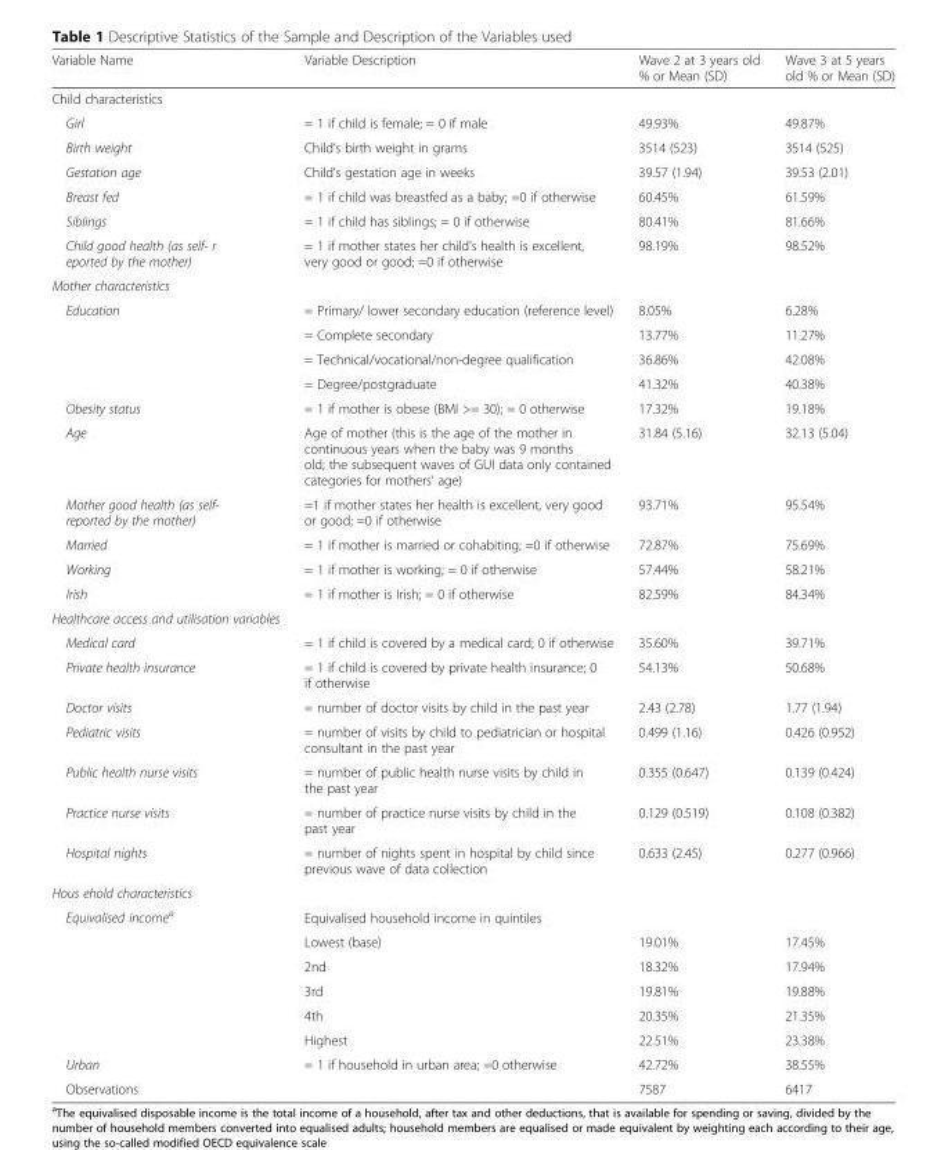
<table><thead><tr><td>Variable Name</td><td>Variable Description</td><td>Wave 2 at 3 years old % or Mean (SD)</td><td>Wave 3 at 5 years old % or Mean (SD)</td></tr></thead><tbody><tr><td colspan="4">Child characteristics</td></tr><tr><td>Girl</td><td>= 1 if child is female; = 0 if male</td><td>49.93%</td><td>49.87%</td></tr><tr><td>Birth weight</td><td>Child’s birth weight in grams</td><td>3514 (523)</td><td>3514 (525)</td></tr><tr><td>Gestation age</td><td>Child’s gestation age in weeks</td><td>39.57 (1.94)</td><td>39.53 (2.01)</td></tr><tr><td>Breast fed</td><td>= 1 if child was breastfed as a baby; =0 if otherwise</td><td>60.45%</td><td>61.59%</td></tr><tr><td>Siblings</td><td>= 1 if child has siblings; = 0 if otherwise</td><td>80.41%</td><td>81.66%</td></tr><tr><td>Child good health (as self- r eported by the mother)</td><td>= 1 if mother states her child’s health is excellent, very good or good; =0 if otherwise</td><td>98.19%</td><td>98.52%</td></tr><tr><td colspan="4">Mother characteristics</td></tr><tr><td rowspan="4">Education</td><td>= Primary/ lower secondary education (reference level)</td><td>8.05%</td><td>6.28%</td></tr><tr><td>= Complete secondary</td><td>13.77%</td><td>11.27%</td></tr><tr><td>= Technical/vocational/non-degree qualification</td><td>36.86%</td><td>42.08%</td></tr><tr><td>= Degree/postgraduate</td><td>41.32%</td><td>40.38%</td></tr><tr><td>Obesity status</td><td>= 1 if mother is obese (BMI &gt;= 30); = 0 otherwise</td><td>17.32%</td><td>19.18%</td></tr><tr><td>Age</td><td>Age of mother (this is the age of the mother in continuous years when the baby was 9 months old; the subsequent waves of GUI data only contained categories for mothers’ age)</td><td>31.84 (5.16)</td><td>32.13 (5.04)</td></tr><tr><td>Mother good health (as self- reported by the mother)</td><td>=1 if mother states her health is excellent, very good or good; =0 if otherwise</td><td>93.71%</td><td>95.54%</td></tr><tr><td>Married</td><td>= 1 if mother is married or cohabiting; =0 if otherwise</td><td>72.87%</td><td>75.69%</td></tr><tr><td>Working</td><td>= 1 if mother is working; = 0 if otherwise</td><td>57.44%</td><td>58.21%</td></tr><tr><td>Irish</td><td>= 1 if mother is Irish; = 0 if otherwise</td><td>82.59%</td><td>84.34%</td></tr><tr><td colspan="4">Healthcare access and utilisation variables</td></tr><tr><td>Medical card</td><td>= 1 if child is covered by a medical card; 0 if otherwise</td><td>35.60%</td><td>39.71%</td></tr><tr><td>Private health insurance</td><td>= 1 if child is covered by private health insurance; 0 if otherwise</td><td>54.13%</td><td>50.68%</td></tr><tr><td>Doctor visits</td><td>= number of doctor visits by child in the past year</td><td>2.43 (2.78)</td><td>1.77 (1.94)</td></tr><tr><td>Pediatric visits</td><td>= number of visits by child to pediatrician or hospital consultant in the past year</td><td>0.499 (1.16)</td><td>0.426 (0.952)</td></tr><tr><td>Public health nurse visits</td><td>= number of public health nurse visits by child in the past year</td><td>0.355 (0.647)</td><td>0.139 (0.424)</td></tr><tr><td>Practice nurse visits</td><td>= number of practice nurse visits by child in the past year</td><td>0.129 (0.519)</td><td>0.108 (0.382)</td></tr><tr><td>Hospital nights</td><td>= number of nights spent in hospital by child since previous wave of data collection</td><td>0.633 (2.45)</td><td>0.277 (0.966)</td></tr><tr><td colspan="4">Hous ehold characteristics</td></tr><tr><td rowspan="6">Equivalised income<sup>a</sup></td><td>Equivalised household income in quintiles</td><td></td><td></td></tr><tr><td>Lowest (base)</td><td>19.01%</td><td>17.45%</td></tr><tr><td>2nd</td><td>18.32%</td><td>17.94%</td></tr><tr><td>3rd</td><td>19.81%</td><td>19.88%</td></tr><tr><td>4th</td><td>20.35%</td><td>21.35%</td></tr><tr><td>Highest</td><td>22.51%</td><td>23.38%</td></tr><tr><td>Urban</td><td>= 1 if household in urban area; =0 otherwise</td><td>42.72%</td><td>38.55%</td></tr><tr><td>Observations</td><td></td><td>7587</td><td>6417</td></tr></tbody></table>